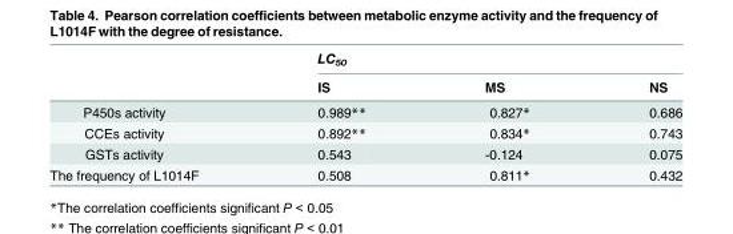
<table><thead><tr><td rowspan="2"></td><td colspan="3">LC<sub>50</sub></td></tr><tr><td>IS</td><td>MS</td><td>NS</td></tr></thead><tbody><tr><td>P450s activity</td><td>0.989**</td><td>0.827*</td><td>0.686</td></tr><tr><td>CCEs activity</td><td>0.892**</td><td>0.834*</td><td>0.743</td></tr><tr><td>GSTs activity</td><td>0.543</td><td>-0.124</td><td>0.075</td></tr><tr><td>The frequency of L1014F</td><td>0.508</td><td>0.811*</td><td>0.432</td></tr></tbody></table>